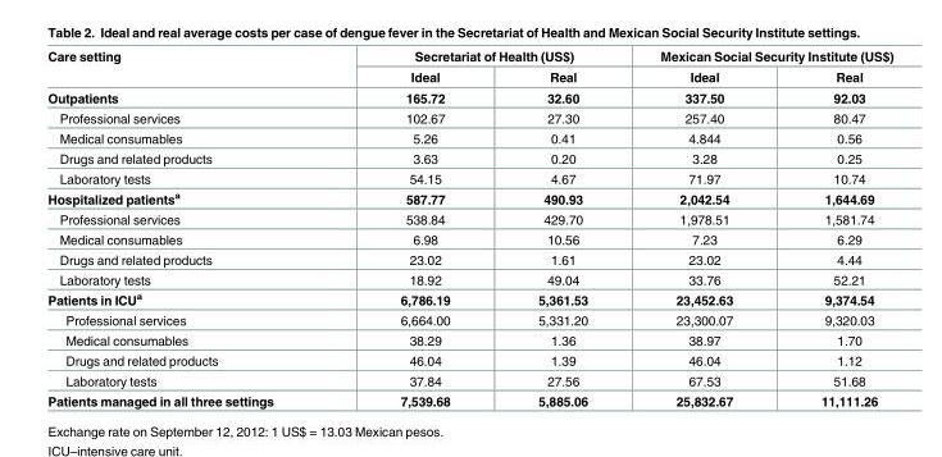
<table><thead><tr><td rowspan="2">Care setting</td><td colspan="2">Secretariat of Health (US$)</td><td colspan="2">Mexican Social Security Institute (US$)</td></tr><tr><td>Ideal</td><td>Real</td><td>Ideal</td><td>Real</td></tr></thead><tbody><tr><td>Outpatients</td><td>165.72</td><td>32.60</td><td>337.50</td><td>92.03</td></tr><tr><td>Professional services</td><td>102.67</td><td>27.30</td><td>257.40</td><td>80.47</td></tr><tr><td>Medical consumables</td><td>5.26</td><td>0.41</td><td>4.844</td><td>0.56</td></tr><tr><td>Drugs and related products</td><td>3.63</td><td>0.20</td><td>3.28</td><td>0.25</td></tr><tr><td>Laboratory tests</td><td>54.15</td><td>4.67</td><td>71.97</td><td>10.74</td></tr><tr><td>Hospitalized patients<sup>a</sup></td><td>587.77</td><td>490.93</td><td>2,042.54</td><td>1,644.69</td></tr><tr><td>Professional services</td><td>538.84</td><td>429.70</td><td>1,978.51</td><td>1,581.74</td></tr><tr><td>Medical consumables</td><td>6.98</td><td>10.56</td><td>7.23</td><td>6.29</td></tr><tr><td>Drugs and related products</td><td>23.02</td><td>1.61</td><td>23.02</td><td>4.44</td></tr><tr><td>Laboratory tests</td><td>18.92</td><td>49.04</td><td>33.76</td><td>52.21</td></tr><tr><td>Patients in ICU<sup>a</sup></td><td>6,786.19</td><td>5,361.53</td><td>23,452.63</td><td>9,374.54</td></tr><tr><td>Professional services</td><td>6,664.00</td><td>5,331.20</td><td>23,300.07</td><td>9,320.03</td></tr><tr><td>Medical consumables</td><td>38.29</td><td>1.36</td><td>38.97</td><td>1.70</td></tr><tr><td>Drugs and related products</td><td>46.04</td><td>1.39</td><td>46.04</td><td>1.12</td></tr><tr><td>Laboratory tests</td><td>37.84</td><td>27.56</td><td>67.53</td><td>51.68</td></tr><tr><td>Patients managed in all three settings</td><td>7,539.68</td><td>5,885.06</td><td>25,832.67</td><td>11,111.26</td></tr></tbody></table>